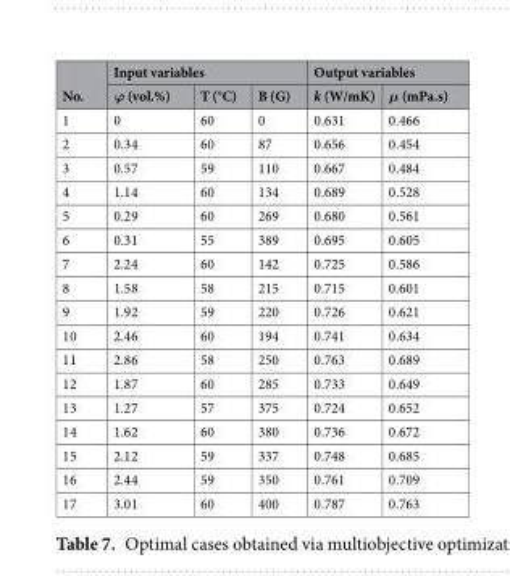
<table><thead><tr><td rowspan="2">No.</td><td colspan="3">Input variables</td><td colspan="2">Output variables</td></tr><tr><td>ϕ (vol.%)</td><td>T (°C)</td><td>B (G)</td><td>k (W/mK)</td><td>μ (mPa.s)</td></tr></thead><tbody><tr><td>1</td><td>0</td><td>60</td><td>0</td><td>0.631</td><td>0.466</td></tr><tr><td>2</td><td>0.34</td><td>60</td><td>87</td><td>0.656</td><td>0.454</td></tr><tr><td>3</td><td>0.57</td><td>59</td><td>110</td><td>0.667</td><td>0.484</td></tr><tr><td>4</td><td>1.14</td><td>60</td><td>134</td><td>0.689</td><td>0.528</td></tr><tr><td>5</td><td>0.29</td><td>60</td><td>269</td><td>0.680</td><td>0.561</td></tr><tr><td>6</td><td>0.31</td><td>55</td><td>389</td><td>0.695</td><td>0.605</td></tr><tr><td>7</td><td>2.24</td><td>60</td><td>142</td><td>0.725</td><td>0.586</td></tr><tr><td>8</td><td>1.58</td><td>58</td><td>215</td><td>0.715</td><td>0.601</td></tr><tr><td>9</td><td>1.92</td><td>59</td><td>220</td><td>0.726</td><td>0.621</td></tr><tr><td>10</td><td>2.46</td><td>60</td><td>194</td><td>0.741</td><td>0.634</td></tr><tr><td>11</td><td>2.86</td><td>58</td><td>250</td><td>0.763</td><td>0.689</td></tr><tr><td>12</td><td>1.87</td><td>60</td><td>285</td><td>0.733</td><td>0.649</td></tr><tr><td>13</td><td>1.27</td><td>57</td><td>375</td><td>0.724</td><td>0.652</td></tr><tr><td>14</td><td>1.62</td><td>60</td><td>380</td><td>0.736</td><td>0.672</td></tr><tr><td>15</td><td>2.12</td><td>59</td><td>337</td><td>0.748</td><td>0.685</td></tr><tr><td>16</td><td>2.44</td><td>59</td><td>350</td><td>0.761</td><td>0.709</td></tr><tr><td>17</td><td>3.01</td><td>60</td><td>400</td><td>0.787</td><td>0.763</td></tr></tbody></table>